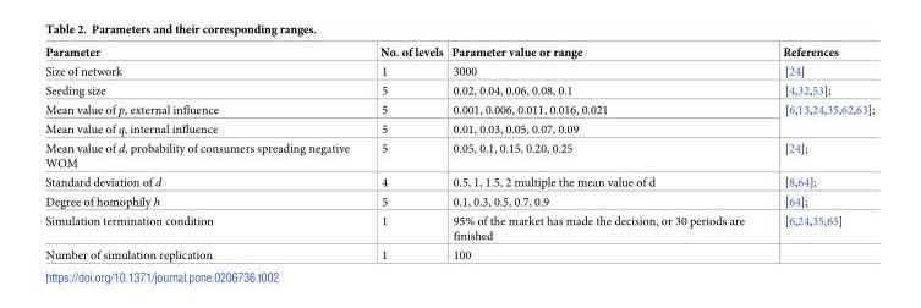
<table><thead><tr><td>Parameter</td><td>No. of levels</td><td>Parameter value or range</td><td>References</td></tr></thead><tbody><tr><td>Size of network</td><td>1</td><td>3000</td><td>[24]</td></tr><tr><td>Seeding size</td><td>5</td><td>0.02, 0.04, 0.06, 0.08, 0.1</td><td>[4,32,53];</td></tr><tr><td>Mean value of p, external influence</td><td>5</td><td>0.001, 0.006, 0.011, 0.016, 0.021</td><td rowspan="2">[6,13,24,35,62,63];</td></tr><tr><td>Mean value of q, internal influence</td><td>5</td><td>0.01, 0.03, 0.05, 0.07, 0.09</td></tr><tr><td>Mean value of d, probability of consumers spreading negative WOM</td><td>5</td><td>0.05, 0.1, 0.15, 0.20, 0.25</td><td>[24];</td></tr><tr><td>Standard deviation of d</td><td>4</td><td>0.5, 1, 1.5, 2 multiple the mean value of d</td><td>[8,64];</td></tr><tr><td>Degree of homophily h</td><td>5</td><td>0.1, 0.3, 0.5, 0.7, 0.9</td><td>[64];</td></tr><tr><td>Simulation termination condition</td><td>1</td><td>95% of the market has made the decision, or 30 periods are finished</td><td>[6,24,35,65]</td></tr><tr><td>Number of simulation replication</td><td>1</td><td>100</td><td></td></tr></tbody></table>